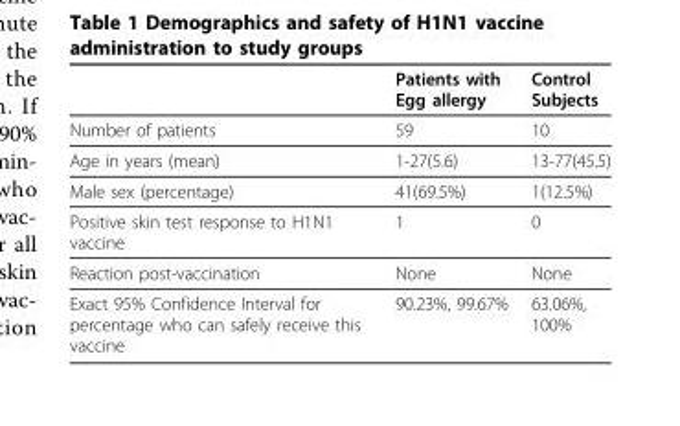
<table><thead><tr><td></td><td>Patients with Egg allergy</td><td>Control Subjects</td></tr></thead><tbody><tr><td>Number of patients</td><td>59</td><td>10</td></tr><tr><td>Age in years (mean)</td><td>1-27(5.6)</td><td>13-77(45.5)</td></tr><tr><td>Male sex (percentage)</td><td>41(69.5%)</td><td>1(12.5%)</td></tr><tr><td>Positive skin test response to H1N1 vaccine</td><td>1</td><td>0</td></tr><tr><td>Reaction post-vaccination</td><td>None</td><td>None</td></tr><tr><td>Exact 95% Confidence Interval for percentage who can safely receive this vaccine</td><td>90.23%, 99.67%</td><td>63.06%, 100%</td></tr></tbody></table>